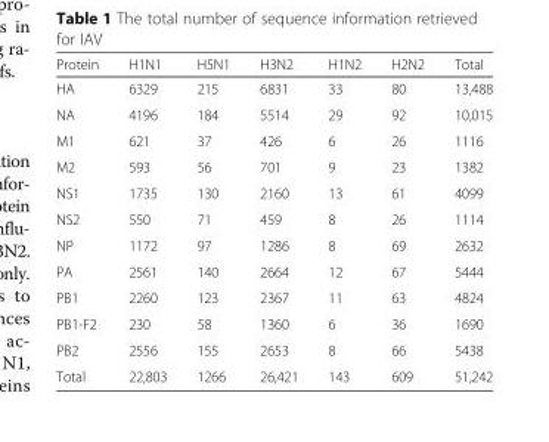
<table><thead><tr><td>Protein</td><td>H1N1</td><td>H5N1</td><td>H3N2</td><td>H1N2</td><td>H2N2</td><td>Total</td></tr></thead><tbody><tr><td>HA</td><td>6329</td><td>215</td><td>6831</td><td>33</td><td>80</td><td>13,488</td></tr><tr><td>NA</td><td>4196</td><td>184</td><td>5514</td><td>29</td><td>92</td><td>10,015</td></tr><tr><td>M1</td><td>621</td><td>37</td><td>426</td><td>6</td><td>26</td><td>1116</td></tr><tr><td>M2</td><td>593</td><td>56</td><td>701</td><td>9</td><td>23</td><td>1382</td></tr><tr><td>NS1</td><td>1735</td><td>130</td><td>2160</td><td>13</td><td>61</td><td>4099</td></tr><tr><td>NS2</td><td>550</td><td>71</td><td>459</td><td>8</td><td>26</td><td>1114</td></tr><tr><td>NP</td><td>1172</td><td>97</td><td>1286</td><td>8</td><td>69</td><td>2632</td></tr><tr><td>PA</td><td>2561</td><td>140</td><td>2664</td><td>12</td><td>67</td><td>5444</td></tr><tr><td>PB1</td><td>2260</td><td>123</td><td>2367</td><td>11</td><td>63</td><td>4824</td></tr><tr><td>PB1-F2</td><td>230</td><td>58</td><td>1360</td><td>6</td><td>36</td><td>1690</td></tr><tr><td>PB2</td><td>2556</td><td>155</td><td>2653</td><td>8</td><td>66</td><td>5438</td></tr><tr><td>Total</td><td>22,803</td><td>1266</td><td>26,421</td><td>143</td><td>609</td><td>51,242</td></tr></tbody></table>